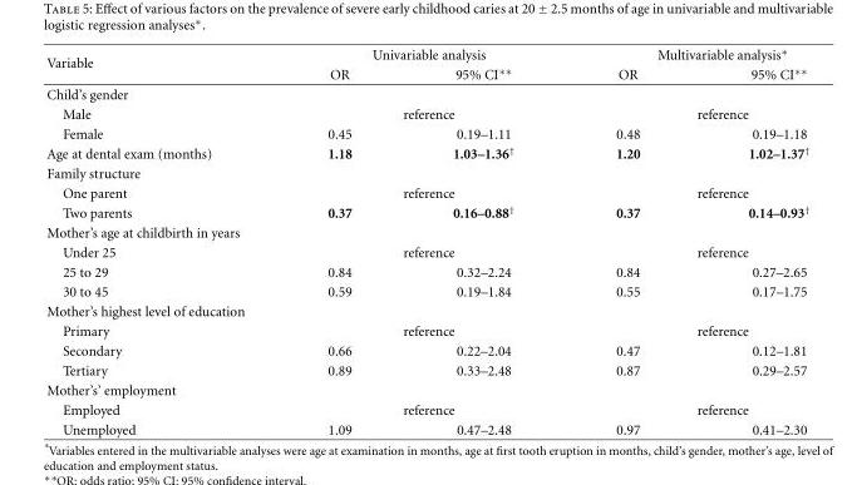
<table><thead><tr><td rowspan="2">Variable</td><td colspan="2">Univariable analysis</td><td colspan="2">Multivariable analysis∗</td></tr><tr><td>OR</td><td>95% CI∗∗</td><td>OR</td><td>95% CI∗∗</td></tr></thead><tbody><tr><td colspan="5">Child’s gender</td></tr><tr><td>Male</td><td colspan="2">reference</td><td colspan="2">reference</td></tr><tr><td>Female</td><td>0.45</td><td>0.19–1.11</td><td>0.48</td><td>0.19–1.18</td></tr><tr><td>Age at dental exam (months)</td><td>1.18</td><td>1.03–1.36<sup>†</sup></td><td>1.20</td><td>1.02–1.37<sup>†</sup></td></tr><tr><td colspan="5">Family structure</td></tr><tr><td>One parent</td><td colspan="2">reference</td><td colspan="2">reference</td></tr><tr><td>Two parents</td><td>0.37</td><td>0.16–0.88<sup>†</sup></td><td>0.37</td><td>0.14–0.93<sup>†</sup></td></tr><tr><td colspan="5">Mother’s age at childbirth in years</td></tr><tr><td>Under 25</td><td colspan="2">reference</td><td colspan="2">reference</td></tr><tr><td>25 to 29</td><td>0.84</td><td>0.32–2.24</td><td>0.84</td><td>0.27–2.65</td></tr><tr><td>30 to 45</td><td>0.59</td><td>0.19–1.84</td><td>0.55</td><td>0.17–1.75</td></tr><tr><td colspan="5">Mother’s highest level of education</td></tr><tr><td>Primary</td><td colspan="2">reference</td><td colspan="2">reference</td></tr><tr><td>Secondary</td><td>0.66</td><td>0.22–2.04</td><td>0.47</td><td>0.12–1.81</td></tr><tr><td>Tertiary</td><td>0.89</td><td>0.33–2.48</td><td>0.87</td><td>0.29–2.57</td></tr><tr><td colspan="5">Mother’s’ employment</td></tr><tr><td>Employed</td><td colspan="2">reference</td><td colspan="2">reference</td></tr><tr><td>Unemployed</td><td>1.09</td><td>0.47–2.48</td><td>0.97</td><td>0.41–2.30</td></tr></tbody></table>